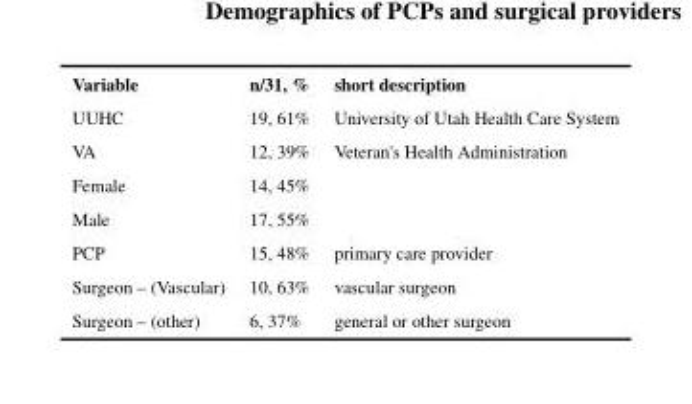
<table><thead><tr><td>Variable</td><td>n/31, %</td><td>short description</td></tr></thead><tbody><tr><td>UUHC</td><td>19, 61%</td><td>University of Utah Health Care System</td></tr><tr><td>VA</td><td>12, 39%</td><td>Veteran&#x27;s Health Administration</td></tr><tr><td>Female</td><td>14, 45%</td><td></td></tr><tr><td>Male</td><td>17, 55%</td><td></td></tr><tr><td>PCP</td><td>15, 48%</td><td>primary care provider</td></tr><tr><td>Surgeon – (Vascular)</td><td>10, 63%</td><td>vascular surgeon</td></tr><tr><td>Surgeon – (other)</td><td>6, 37%</td><td>general or other surgeon</td></tr></tbody></table>